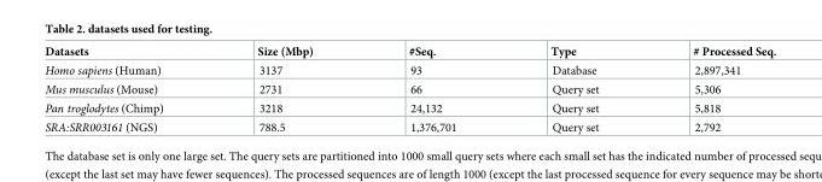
<table><thead><tr><td>Datasets</td><td>Size (Mbp)</td><td>#Seq.</td><td>Type</td><td># Processed Seq.</td></tr></thead><tbody><tr><td>Homo sapiens (Human)</td><td>3137</td><td>93</td><td>Database</td><td>2,897,341</td></tr><tr><td>Mus musculus (Mouse)</td><td>2731</td><td>66</td><td>Query set</td><td>5,306</td></tr><tr><td>Pan troglodytes (Chimp)</td><td>3218</td><td>24,132</td><td>Query set</td><td>5,818</td></tr><tr><td>SRA:SRR003161 (NGS)</td><td>788.5</td><td>1,376,701</td><td>Query set</td><td>2,792</td></tr></tbody></table>